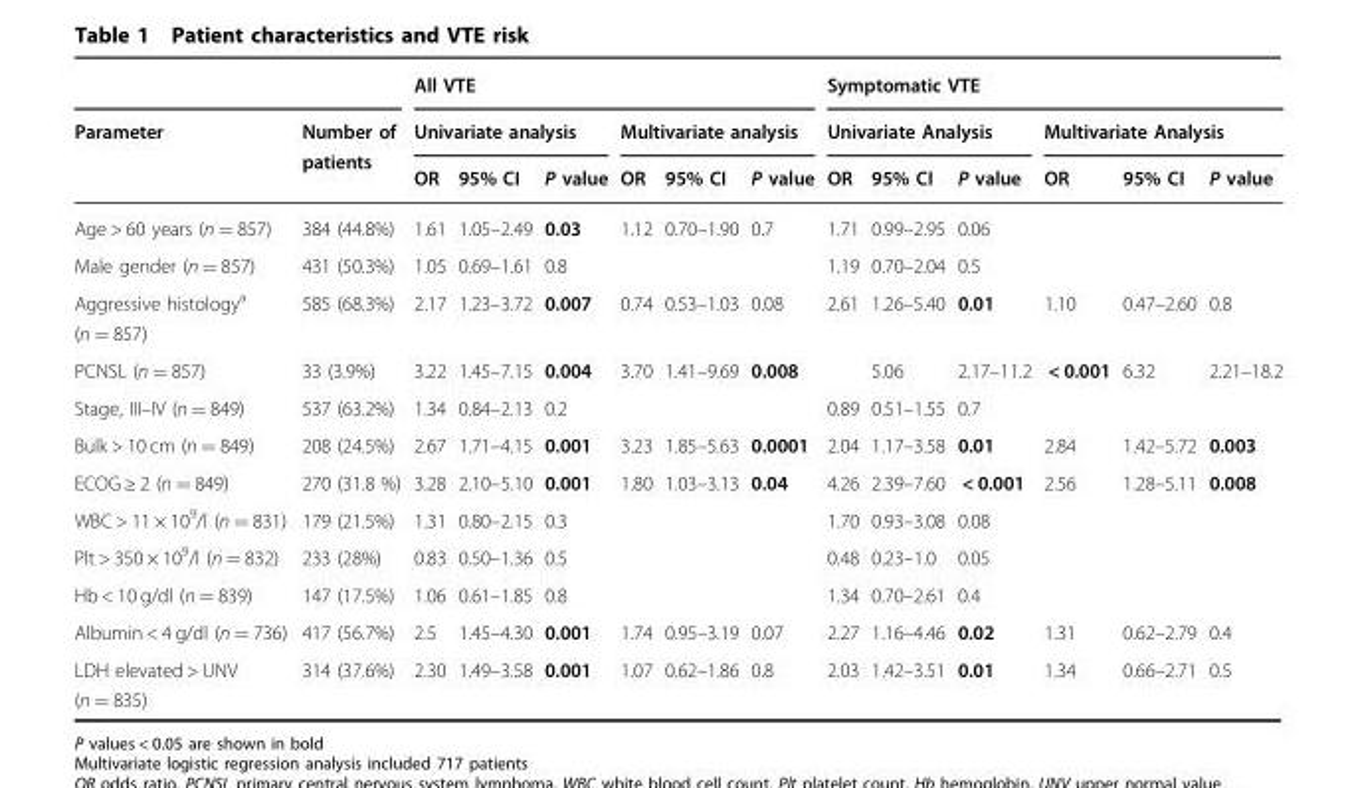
<table><thead><tr><td rowspan="3">Parameter</td><td rowspan="3">Number of patients</td><td colspan="6">All VTE</td><td colspan="6">Symptomatic VTE</td></tr><tr><td colspan="3">Univariate analysis</td><td colspan="3">Multivariate analysis</td><td colspan="3">Univariate Analysis</td><td colspan="3">Multivariate Analysis</td></tr><tr><td>OR</td><td>95% CI</td><td>P value</td><td>OR</td><td>95% CI</td><td>P value</td><td>OR</td><td>95% CI</td><td>P value</td><td>OR</td><td>95% CI</td><td>P value</td></tr></thead><tbody><tr><td>Age &gt; 60 years (n = 857)</td><td>384 (44.8%)</td><td>1.61</td><td>1.05–2.49</td><td>0.03</td><td>1.12</td><td>0.70–1.90</td><td>0.7</td><td>1.71</td><td>0.99–2.95</td><td>0.06</td><td></td><td></td><td></td></tr><tr><td>Male gender (n = 857)</td><td>431 (50.3%)</td><td>1.05</td><td>0.69–1.61</td><td>0.8</td><td></td><td></td><td></td><td>1.19</td><td>0.70–2.04</td><td>0.5</td><td></td><td></td><td></td></tr><tr><td>Aggressive histology<sup>a</sup> (n = 857)</td><td>585 (68.3%)</td><td>2.17</td><td>1.23–3.72</td><td>0.007</td><td>0.74</td><td>0.53–1.03</td><td>0.08</td><td>2.61</td><td>1.26–5.40</td><td>0.01</td><td>1.10</td><td>0.47–2.60</td><td>0.8</td></tr><tr><td>PCNSL (n = 857)</td><td>33 (3.9%)</td><td>3.22</td><td>1.45–7.15</td><td>0.004</td><td>3.70</td><td>1.41–9.69</td><td>0.008</td><td></td><td>5.06</td><td>2.17–11.2</td><td>&lt; 0.001</td><td>6.32</td><td>2.21–18.2</td></tr><tr><td>Stage, III–IV (n = 849)</td><td>537 (63.2%)</td><td>1.34</td><td>0.84–2.13</td><td>0.2</td><td></td><td></td><td></td><td>0.89</td><td>0.51–1.55</td><td>0.7</td><td></td><td></td><td></td></tr><tr><td>Bulk &gt; 10 cm (n = 849)</td><td>208 (24.5%)</td><td>2.67</td><td>1.71–4.15</td><td>0.001</td><td>3.23</td><td>1.85–5.63</td><td>0.0001</td><td>2.04</td><td>1.17–3.58</td><td>0.01</td><td>2.84</td><td>1.42–5.72</td><td>0.003</td></tr><tr><td>ECOG ≥ 2 (n = 849)</td><td>270 (31.8 %)</td><td>3.28</td><td>2.10–5.10</td><td>0.001</td><td>1.80</td><td>1.03–3.13</td><td>0.04</td><td>4.26</td><td>2.39–7.60</td><td>&lt; 0.001</td><td>2.56</td><td>1.28–5.11</td><td>0.008</td></tr><tr><td>WBC &gt; 11 × 10<sup>9</sup>/l (n = 831)</td><td>179 (21.5%)</td><td>1.31</td><td>0.80–2.15</td><td>0.3</td><td></td><td></td><td></td><td>1.70</td><td>0.93–3.08</td><td>0.08</td><td></td><td></td><td></td></tr><tr><td>Plt &gt; 350 × 10<sup>9</sup>/l (n = 832)</td><td>233 (28%)</td><td>0.83</td><td>0.50–1.36</td><td>0.5</td><td></td><td></td><td></td><td>0.48</td><td>0.23–1.0</td><td>0.05</td><td></td><td></td><td></td></tr><tr><td>Hb &lt; 10 g/dl (n = 839)</td><td>147 (17.5%)</td><td>1.06</td><td>0.61–1.85</td><td>0.8</td><td></td><td></td><td></td><td>1.34</td><td>0.70–2.61</td><td>0.4</td><td></td><td></td><td></td></tr><tr><td>Albumin &lt; 4 g/dl (n = 736)</td><td>417 (56.7%)</td><td>2.5</td><td>1.45–4.30</td><td>0.001</td><td>1.74</td><td>0.95–3.19</td><td>0.07</td><td>2.27</td><td>1.16–4.46</td><td>0.02</td><td>1.31</td><td>0.62–2.79</td><td>0.4</td></tr><tr><td>LDH elevated &gt; UNV (n = 835)</td><td>314 (37.6%)</td><td>2.30</td><td>1.49–3.58</td><td>0.001</td><td>1.07</td><td>0.62–1.86</td><td>0.8</td><td>2.03</td><td>1.42–3.51</td><td>0.01</td><td>1.34</td><td>0.66–2.71</td><td>0.5</td></tr></tbody></table>